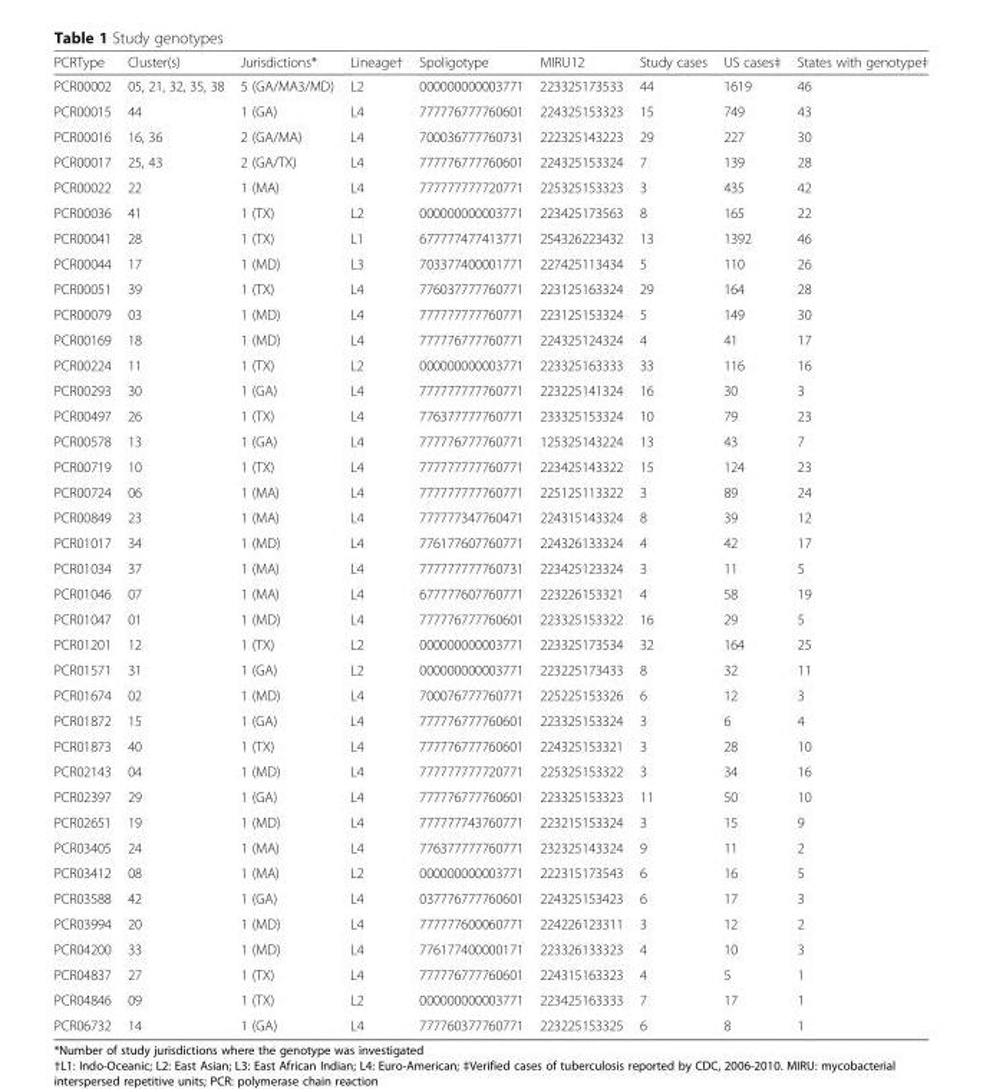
<table><thead><tr><td>PCRType</td><td>Cluster(s)</td><td>Jurisdictions*</td><td>Lineage†</td><td>Spoligotype</td><td>MIRU12</td><td>Study cases</td><td>US cases‡</td><td>States with genotype‡</td></tr></thead><tbody><tr><td>PCR00002</td><td>05, 21, 32, 35, 38</td><td>5 (GA/MA3/MD)</td><td>L2</td><td>000000000003771</td><td>223325173533</td><td>44</td><td>1619</td><td>46</td></tr><tr><td>PCR00015</td><td>44</td><td>1 (GA)</td><td>L4</td><td>777776777760601</td><td>224325153323</td><td>15</td><td>749</td><td>43</td></tr><tr><td>PCR00016</td><td>16, 36</td><td>2 (GA/MA)</td><td>L4</td><td>700036777760731</td><td>222325143223</td><td>29</td><td>227</td><td>30</td></tr><tr><td>PCR00017</td><td>25, 43</td><td>2 (GA/TX)</td><td>L4</td><td>777776777760601</td><td>224325153324</td><td>7</td><td>139</td><td>28</td></tr><tr><td>PCR00022</td><td>22</td><td>1 (MA)</td><td>L4</td><td>777777777720771</td><td>225325153323</td><td>3</td><td>435</td><td>42</td></tr><tr><td>PCR00036</td><td>41</td><td>1 (TX)</td><td>L2</td><td>000000000003771</td><td>223425173563</td><td>8</td><td>165</td><td>22</td></tr><tr><td>PCR00041</td><td>28</td><td>1 (TX)</td><td>L1</td><td>677777477413771</td><td>254326223432</td><td>13</td><td>1392</td><td>46</td></tr><tr><td>PCR00044</td><td>17</td><td>1 (MD)</td><td>L3</td><td>703377400001771</td><td>227425113434</td><td>5</td><td>110</td><td>26</td></tr><tr><td>PCR00051</td><td>39</td><td>1 (TX)</td><td>L4</td><td>776037777760771</td><td>223125163324</td><td>29</td><td>164</td><td>28</td></tr><tr><td>PCR00079</td><td>03</td><td>1 (MD)</td><td>L4</td><td>777777777760771</td><td>223125153324</td><td>5</td><td>149</td><td>30</td></tr><tr><td>PCR00169</td><td>18</td><td>1 (MD)</td><td>L4</td><td>777776777760771</td><td>224325124324</td><td>4</td><td>41</td><td>17</td></tr><tr><td>PCR00224</td><td>11</td><td>1 (TX)</td><td>L2</td><td>000000000003771</td><td>223325163333</td><td>33</td><td>116</td><td>16</td></tr><tr><td>PCR00293</td><td>30</td><td>1 (GA)</td><td>L4</td><td>777777777760771</td><td>223225141324</td><td>16</td><td>30</td><td>3</td></tr><tr><td>PCR00497</td><td>26</td><td>1 (TX)</td><td>L4</td><td>776377777760771</td><td>233325153324</td><td>10</td><td>79</td><td>23</td></tr><tr><td>PCR00578</td><td>13</td><td>1 (GA)</td><td>L4</td><td>777776777760771</td><td>125325143224</td><td>13</td><td>43</td><td>7</td></tr><tr><td>PCR00719</td><td>10</td><td>1 (TX)</td><td>L4</td><td>777777777760771</td><td>223425143322</td><td>15</td><td>124</td><td>23</td></tr><tr><td>PCR00724</td><td>06</td><td>1 (MA)</td><td>L4</td><td>777777777760771</td><td>225125113322</td><td>3</td><td>89</td><td>24</td></tr><tr><td>PCR00849</td><td>23</td><td>1 (MA)</td><td>L4</td><td>777777347760471</td><td>224315143324</td><td>8</td><td>39</td><td>12</td></tr><tr><td>PCR01017</td><td>34</td><td>1 (MD)</td><td>L4</td><td>776177607760771</td><td>224326133324</td><td>4</td><td>42</td><td>17</td></tr><tr><td>PCR01034</td><td>37</td><td>1 (MA)</td><td>L4</td><td>777777777760731</td><td>223425123324</td><td>3</td><td>11</td><td>5</td></tr><tr><td>PCR01046</td><td>07</td><td>1 (MA)</td><td>L4</td><td>677777607760771</td><td>223226153321</td><td>4</td><td>58</td><td>19</td></tr><tr><td>PCR01047</td><td>01</td><td>1 (MD)</td><td>L4</td><td>777776777760601</td><td>223325153322</td><td>16</td><td>29</td><td>5</td></tr><tr><td>PCR01201</td><td>12</td><td>1 (TX)</td><td>L2</td><td>000000000003771</td><td>223325173534</td><td>32</td><td>164</td><td>25</td></tr><tr><td>PCR01571</td><td>31</td><td>1 (GA)</td><td>L2</td><td>000000000003771</td><td>223225173433</td><td>8</td><td>32</td><td>11</td></tr><tr><td>PCR01674</td><td>02</td><td>1 (MD)</td><td>L4</td><td>700076777760771</td><td>225225153326</td><td>6</td><td>12</td><td>3</td></tr><tr><td>PCR01872</td><td>15</td><td>1 (GA)</td><td>L4</td><td>777776777760601</td><td>223325153324</td><td>3</td><td>6</td><td>4</td></tr><tr><td>PCR01873</td><td>40</td><td>1 (TX)</td><td>L4</td><td>777776777760601</td><td>224325153321</td><td>3</td><td>28</td><td>10</td></tr><tr><td>PCR02143</td><td>04</td><td>1 (MD)</td><td>L4</td><td>777777777720771</td><td>225325153322</td><td>3</td><td>34</td><td>16</td></tr><tr><td>PCR02397</td><td>29</td><td>1 (GA)</td><td>L4</td><td>777776777760601</td><td>223325153323</td><td>11</td><td>50</td><td>10</td></tr><tr><td>PCR02651</td><td>19</td><td>1 (MD)</td><td>L4</td><td>777777743760771</td><td>223215153324</td><td>3</td><td>15</td><td>9</td></tr><tr><td>PCR03405</td><td>24</td><td>1 (MA)</td><td>L4</td><td>776377777760771</td><td>232325143324</td><td>9</td><td>11</td><td>2</td></tr><tr><td>PCR03412</td><td>08</td><td>1 (MA)</td><td>L2</td><td>000000000003771</td><td>222315173543</td><td>6</td><td>16</td><td>5</td></tr><tr><td>PCR03588</td><td>42</td><td>1 (GA)</td><td>L4</td><td>037776777760601</td><td>224325153423</td><td>6</td><td>17</td><td>3</td></tr><tr><td>PCR03994</td><td>20</td><td>1 (MD)</td><td>L4</td><td>777777600060771</td><td>224226123311</td><td>3</td><td>12</td><td>2</td></tr><tr><td>PCR04200</td><td>33</td><td>1 (MD)</td><td>L4</td><td>776177400000171</td><td>223326133323</td><td>4</td><td>10</td><td>3</td></tr><tr><td>PCR04837</td><td>27</td><td>1 (TX)</td><td>L4</td><td>777776777760601</td><td>224315163323</td><td>4</td><td>5</td><td>1</td></tr><tr><td>PCR04846</td><td>09</td><td>1 (TX)</td><td>L2</td><td>000000000003771</td><td>223425163333</td><td>7</td><td>17</td><td>1</td></tr><tr><td>PCR06732</td><td>14</td><td>1 (GA)</td><td>L4</td><td>777760377760771</td><td>223225153325</td><td>6</td><td>8</td><td>1</td></tr></tbody></table>